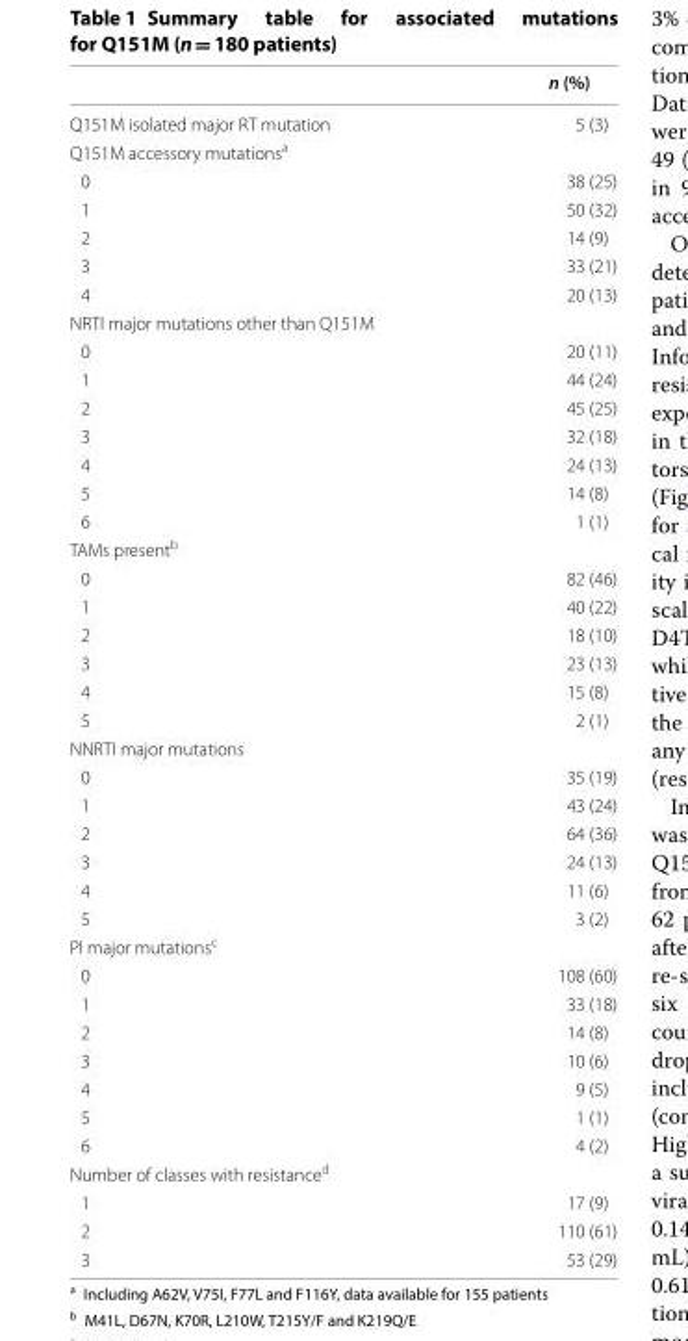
<table><thead><tr><td></td><td>n (%)</td></tr></thead><tbody><tr><td>Q151M isolated major RT mutation</td><td>5 (3)</td></tr><tr><td colspan="2">Q151M accessory mutations<sup>a</sup></td></tr><tr><td>0</td><td>38 (25)</td></tr><tr><td>1</td><td>50 (32)</td></tr><tr><td>2</td><td>14 (9)</td></tr><tr><td>3</td><td>33 (21)</td></tr><tr><td>4</td><td>20 (13)</td></tr><tr><td colspan="2">NRTI major mutations other than Q151M</td></tr><tr><td>0</td><td>20 (11)</td></tr><tr><td>1</td><td>44 (24)</td></tr><tr><td>2</td><td>45 (25)</td></tr><tr><td>3</td><td>32 (18)</td></tr><tr><td>4</td><td>24 (13)</td></tr><tr><td>5</td><td>14 (8)</td></tr><tr><td>6</td><td>1 (1)</td></tr><tr><td colspan="2">TAMs present<sup>b</sup></td></tr><tr><td>0</td><td>82 (46)</td></tr><tr><td>1</td><td>40 (22)</td></tr><tr><td>2</td><td>18 (10)</td></tr><tr><td>3</td><td>23 (13)</td></tr><tr><td>4</td><td>15 (8)</td></tr><tr><td>5</td><td>2 (1)</td></tr><tr><td colspan="2">NNRTI major mutations</td></tr><tr><td>0</td><td>35 (19)</td></tr><tr><td>1</td><td>43 (24)</td></tr><tr><td>2</td><td>64 (36)</td></tr><tr><td>3</td><td>24 (13)</td></tr><tr><td>4</td><td>11 (6)</td></tr><tr><td>5</td><td>3 (2)</td></tr><tr><td colspan="2">PI major mutations<sup>c</sup></td></tr><tr><td>0</td><td>108 (60)</td></tr><tr><td>1</td><td>33 (18)</td></tr><tr><td>2</td><td>14 (8)</td></tr><tr><td>3</td><td>10 (6)</td></tr><tr><td>4</td><td>9 (5)</td></tr><tr><td>5</td><td>1 (1)</td></tr><tr><td>6</td><td>4 (2)</td></tr><tr><td colspan="2">Number of classes with resistance<sup>d</sup></td></tr><tr><td>1</td><td>17 (9)</td></tr><tr><td>2</td><td>110 (61)</td></tr><tr><td>3</td><td>53 (29)</td></tr></tbody></table>